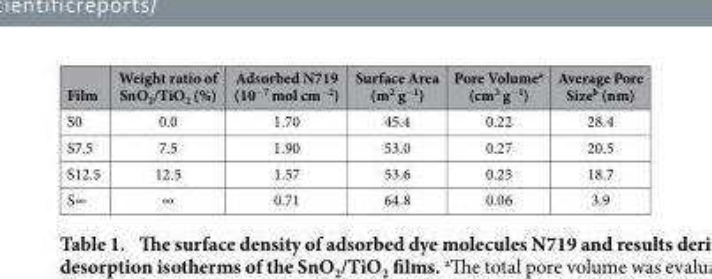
<table><thead><tr><td>Film</td><td>Weight ratio of SnO<sub>2</sub>/TiO<sub>2</sub> (%)</td><td>Adsorbed N719 (10<sup>−7</sup> mol cm<sup>−2</sup>)</td><td>Surface Area (m<sup>2</sup> g<sup>−1</sup>)</td><td>Pore Volume<sup>a</sup> (cm<sup>3</sup> g<sup>−1</sup>)</td><td>Average Pore Size<sup>b</sup> (nm)</td></tr></thead><tbody><tr><td>S0</td><td>0.0</td><td>1.70</td><td>45.4</td><td>0.22</td><td>28.4</td></tr><tr><td>S7.5</td><td>7.5</td><td>1.90</td><td>53.0</td><td>0.27</td><td>20.5</td></tr><tr><td>S12.5</td><td>12.5</td><td>1.57</td><td>53.6</td><td>0.25</td><td>18.7</td></tr><tr><td>S∞</td><td>∞</td><td>0.71</td><td>64.8</td><td>0.06</td><td>3.9</td></tr></tbody></table>